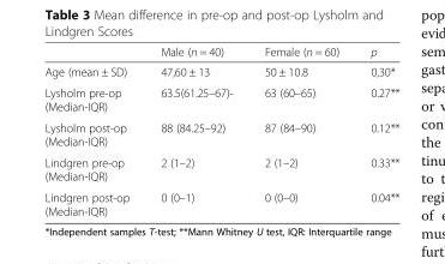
<table><thead><tr><td></td><td>Male (n = 40)</td><td>Female (n = 60)</td><td>p</td></tr></thead><tbody><tr><td>Age (mean ± SD)</td><td>47,60 ± 13</td><td>50 ± 10.8</td><td>0,30*</td></tr><tr><td>Lysholm pre-op (Median-IQR)</td><td>63.5(61.25–67)-</td><td>63 (60–65)</td><td>0.27**</td></tr><tr><td>Lysholm post-op (Median-IQR)</td><td>88 (84.25–92)</td><td>87 (84–90)</td><td>0.12**</td></tr><tr><td>Lindgren pre-op (Median-IQR)</td><td>2 (1–2)</td><td>2 (1–2)</td><td>0.33**</td></tr><tr><td>Lindgren post-op (Median-IQR)</td><td>0 (0–1)</td><td>0 (0–0)</td><td>0.04**</td></tr></tbody></table>